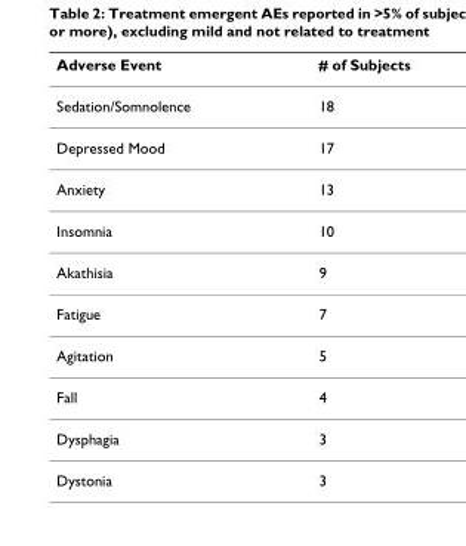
<table><thead><tr><td>Adverse Event</td><td># of Subjects</td></tr></thead><tbody><tr><td>Sedation/Somnolence</td><td>18</td></tr><tr><td>Depressed Mood</td><td>17</td></tr><tr><td>Anxiety</td><td>13</td></tr><tr><td>Insomnia</td><td>10</td></tr><tr><td>Akathisia</td><td>9</td></tr><tr><td>Fatigue</td><td>7</td></tr><tr><td>Agitation</td><td>5</td></tr><tr><td>Fall</td><td>4</td></tr><tr><td>Dysphagia</td><td>3</td></tr><tr><td>Dystonia</td><td>3</td></tr></tbody></table>